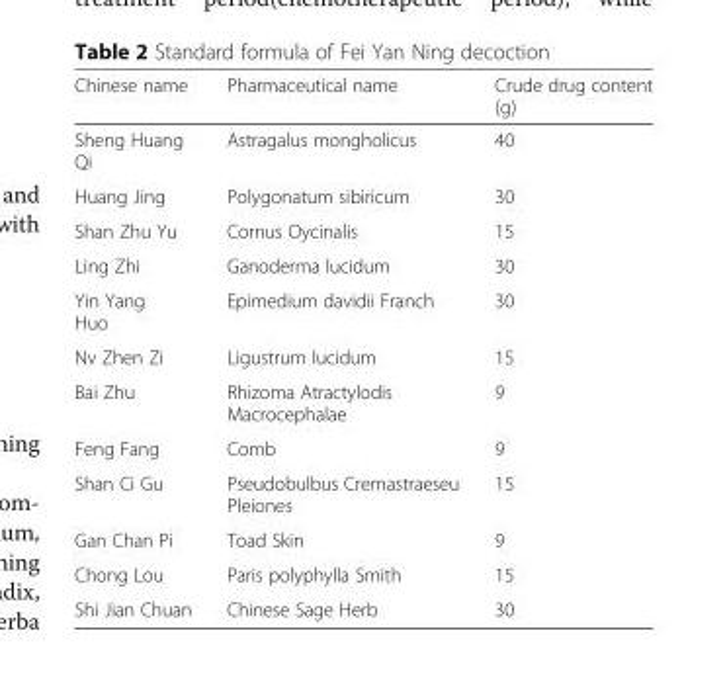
<table><thead><tr><td>Chinese name</td><td>Pharmaceutical name</td><td>Crude drug content (g)</td></tr></thead><tbody><tr><td>Sheng Huang Qi</td><td>Astragalus mongholicus</td><td>40</td></tr><tr><td>Huang Jing</td><td>Polygonatum sibiricum</td><td>30</td></tr><tr><td>Shan Zhu Yu</td><td>Cornus Oycinalis</td><td>15</td></tr><tr><td>Ling Zhi</td><td>Ganoderma lucidum</td><td>30</td></tr><tr><td>Yin Yang Huo</td><td>Epimedium davidii Franch</td><td>30</td></tr><tr><td>Nv Zhen Zi</td><td>Ligustrum lucidum</td><td>15</td></tr><tr><td>Bai Zhu</td><td>Rhizoma Atractylodis Macrocephalae</td><td>9</td></tr><tr><td>Feng Fang</td><td>Comb</td><td>9</td></tr><tr><td>Shan Ci Gu</td><td>Pseudobulbus Cremastraeseu Pleiones</td><td>15</td></tr><tr><td>Gan Chan Pi</td><td>Toad Skin</td><td>9</td></tr><tr><td>Chong Lou</td><td>Paris polyphylla Smith</td><td>15</td></tr><tr><td>Shi Jian Chuan</td><td>Chinese Sage Herb</td><td>30</td></tr></tbody></table>